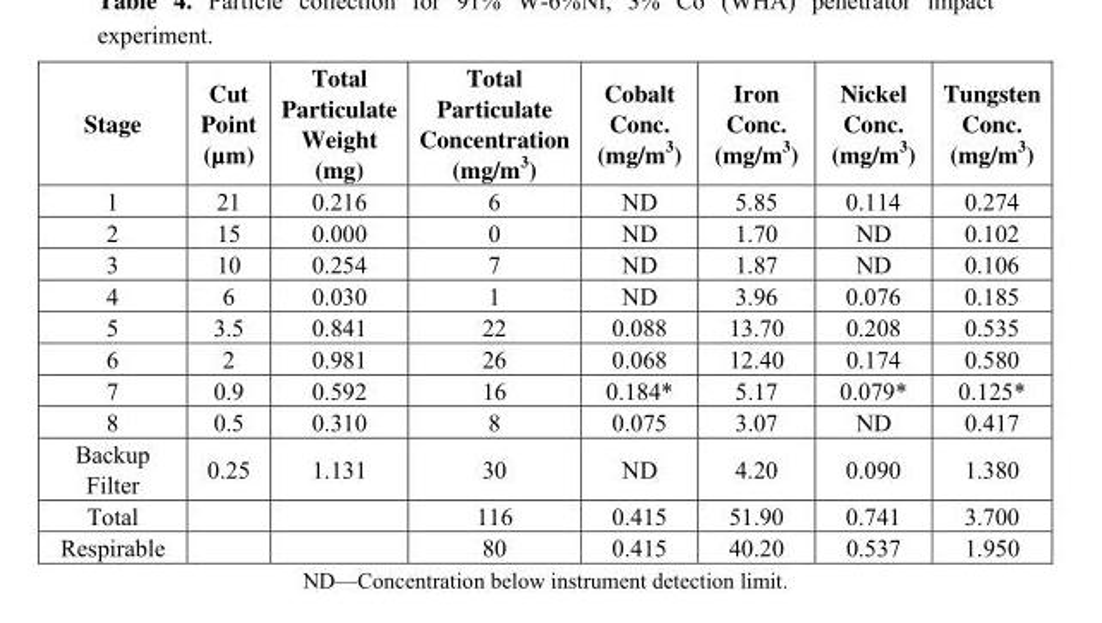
<table><thead><tr><td>Stage</td><td>Cut Point (µm)</td><td>Total Particulate Weight (mg)</td><td>Total Particulate Concentration (mg/m<sup>3</sup>)</td><td>Cobalt Conc. (mg/m<sup>3</sup>)</td><td>Iron Conc. (mg/m<sup>3</sup>)</td><td>Nickel Conc. (mg/m<sup>3</sup>)</td><td>Tungsten Conc. (mg/m<sup>3</sup>)</td></tr></thead><tbody><tr><td>1</td><td>21</td><td>0.216</td><td>6</td><td>ND</td><td>5.85</td><td>0.114</td><td>0.274</td></tr><tr><td>2</td><td>15</td><td>0.000</td><td>0</td><td>ND</td><td>1.70</td><td>ND</td><td>0.102</td></tr><tr><td>3</td><td>10</td><td>0.254</td><td>7</td><td>ND</td><td>1.87</td><td>ND</td><td>0.106</td></tr><tr><td>4</td><td>6</td><td>0.030</td><td>1</td><td>ND</td><td>3.96</td><td>0.076</td><td>0.185</td></tr><tr><td>5</td><td>3.5</td><td>0.841</td><td>22</td><td>0.088</td><td>13.70</td><td>0.208</td><td>0.535</td></tr><tr><td>6</td><td>2</td><td>0.981</td><td>26</td><td>0.068</td><td>12.40</td><td>0.174</td><td>0.580</td></tr><tr><td>7</td><td>0.9</td><td>0.592</td><td>16</td><td>0.184*</td><td>5.17</td><td>0.079*</td><td>0.125*</td></tr><tr><td>8</td><td>0.5</td><td>0.310</td><td>8</td><td>0.075</td><td>3.07</td><td>ND</td><td>0.417</td></tr><tr><td>Backup Filter</td><td>0.25</td><td>1.131</td><td>30</td><td>ND</td><td>4.20</td><td>0.090</td><td>1.380</td></tr><tr><td>Total</td><td></td><td></td><td>116</td><td>0.415</td><td>51.90</td><td>0.741</td><td>3.700</td></tr><tr><td>Respirable</td><td></td><td></td><td>80</td><td>0.415</td><td>40.20</td><td>0.537</td><td>1.950</td></tr></tbody></table>